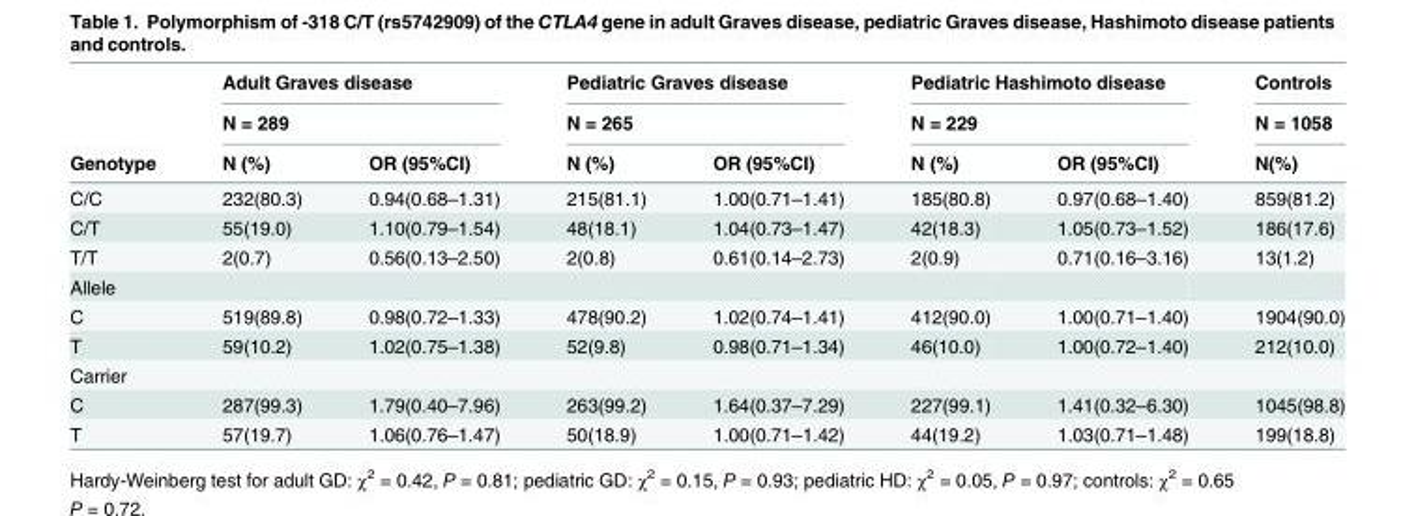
<table><thead><tr><td rowspan="3">Genotype</td><td rowspan="2" colspan="2">Adult Graves disease N = 289</td><td rowspan="2" colspan="2">Pediatric Graves disease N = 265</td><td rowspan="2" colspan="2">Pediatric Hashimoto disease N = 229</td><td rowspan="3">Controls N = 1058 N(%)</td></tr><tr></tr><tr><td>N (%)</td><td>OR (95%CI)</td><td>N (%)</td><td>OR (95%CI)</td><td>N (%)</td><td>OR (95%CI)</td></tr></thead><tbody><tr><td>C/C</td><td>232(80.3)</td><td>0.94(0.68–1.31)</td><td>215(81.1)</td><td>1.00(0.71–1.41)</td><td>185(80.8)</td><td>0.97(0.68–1.40)</td><td>859(81.2)</td></tr><tr><td>C/T</td><td>55(19.0)</td><td>1.10(0.79–1.54)</td><td>48(18.1)</td><td>1.04(0.73–1.47)</td><td>42(18.3)</td><td>1.05(0.73–1.52)</td><td>186(17.6)</td></tr><tr><td>T/T</td><td>2(0.7)</td><td>0.56(0.13–2.50)</td><td>2(0.8)</td><td>0.61(0.14–2.73)</td><td>2(0.9)</td><td>0.71(0.16–3.16)</td><td>13(1.2)</td></tr><tr><td colspan="8">Allele</td></tr><tr><td>C</td><td>519(89.8)</td><td>0.98(0.72–1.33)</td><td>478(90.2)</td><td>1.02(0.74–1.41)</td><td>412(90.0)</td><td>1.00(0.71–1.40)</td><td>1904(90.0)</td></tr><tr><td>T</td><td>59(10.2)</td><td>1.02(0.75–1.38)</td><td>52(9.8)</td><td>0.98(0.71–1.34)</td><td>46(10.0)</td><td>1.00(0.72–1.40)</td><td>212(10.0)</td></tr><tr><td colspan="8">Carrier</td></tr><tr><td>C</td><td>287(99.3)</td><td>1.79(0.40–7.96)</td><td>263(99.2)</td><td>1.64(0.37–7.29)</td><td>227(99.1)</td><td>1.41(0.32–6.30)</td><td>1045(98.8)</td></tr><tr><td>T</td><td>57(19.7)</td><td>1.06(0.76–1.47)</td><td>50(18.9)</td><td>1.00(0.71–1.42)</td><td>44(19.2)</td><td>1.03(0.71–1.48)</td><td>199(18.8)</td></tr></tbody></table>